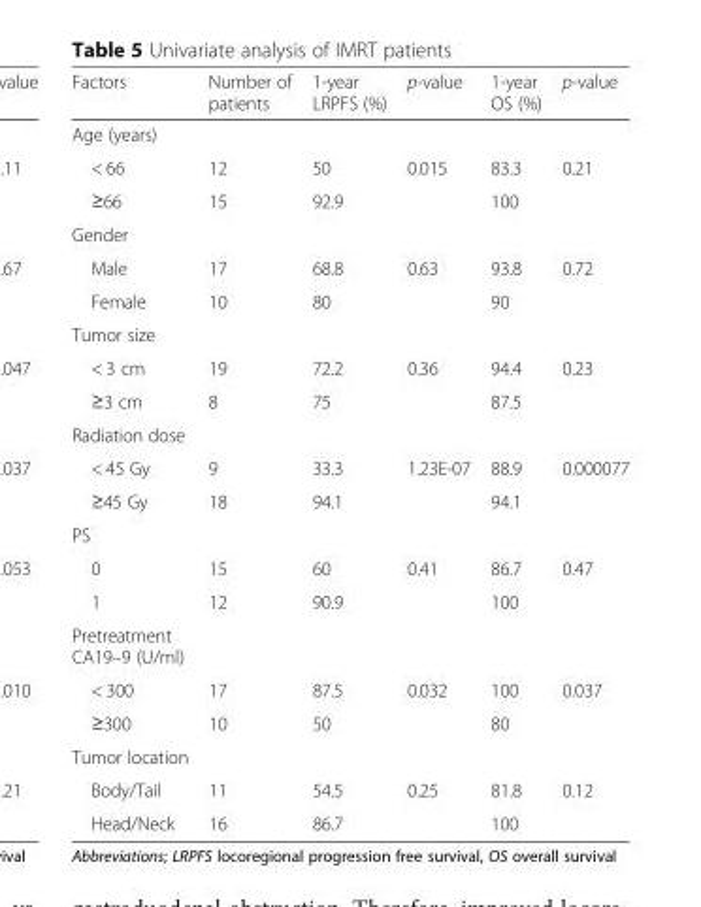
<table><thead><tr><td>Factors</td><td>Number of patients</td><td>1-year LRPFS (%)</td><td>p-value</td><td>1-year OS (%)</td><td>p-value</td></tr></thead><tbody><tr><td colspan="6">Age (years)</td></tr><tr><td>&lt; 66</td><td>12</td><td>50</td><td>0.015</td><td>83.3</td><td>0.21</td></tr><tr><td>≥66</td><td>15</td><td>92.9</td><td></td><td>100</td><td></td></tr><tr><td colspan="6">Gender</td></tr><tr><td>Male</td><td>17</td><td>68.8</td><td>0.63</td><td>93.8</td><td>0.72</td></tr><tr><td>Female</td><td>10</td><td>80</td><td></td><td>90</td><td></td></tr><tr><td colspan="6">Tumor size</td></tr><tr><td>&lt; 3 cm</td><td>19</td><td>72.2</td><td>0.36</td><td>94.4</td><td>0.23</td></tr><tr><td>≥3 cm</td><td>8</td><td>75</td><td></td><td>87.5</td><td></td></tr><tr><td colspan="6">Radiation dose</td></tr><tr><td>&lt; 45 Gy</td><td>9</td><td>33.3</td><td>1.23E-07</td><td>88.9</td><td>0.000077</td></tr><tr><td>≥45 Gy</td><td>18</td><td>94.1</td><td></td><td>94.1</td><td></td></tr><tr><td colspan="6">PS</td></tr><tr><td>0</td><td>15</td><td>60</td><td>0.41</td><td>86.7</td><td>0.47</td></tr><tr><td>1</td><td>12</td><td>90.9</td><td></td><td>100</td><td></td></tr><tr><td colspan="6">Pretreatment CA19–9 (U/ml)</td></tr><tr><td>&lt; 300</td><td>17</td><td>87.5</td><td>0.032</td><td>100</td><td>0.037</td></tr><tr><td>≥300</td><td>10</td><td>50</td><td></td><td>80</td><td></td></tr><tr><td colspan="6">Tumor location</td></tr><tr><td>Body/Tail</td><td>11</td><td>54.5</td><td>0.25</td><td>81.8</td><td>0.12</td></tr><tr><td>Head/Neck</td><td>16</td><td>86.7</td><td></td><td>100</td><td></td></tr></tbody></table>